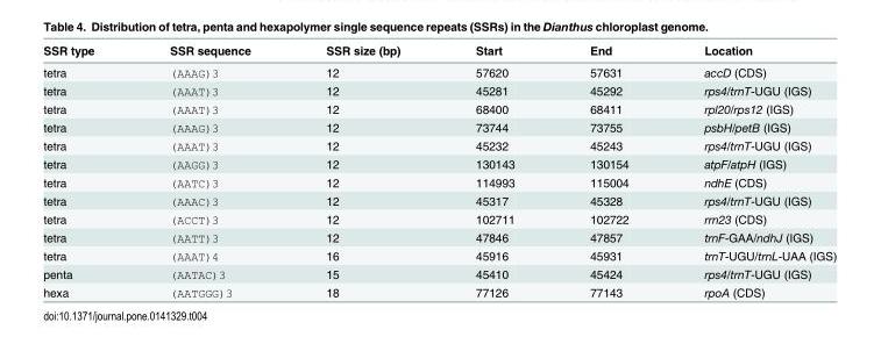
<table><thead><tr><td>SSR type</td><td>SSR sequence</td><td>SSR size (bp)</td><td>Start</td><td>End</td><td>Location</td></tr></thead><tbody><tr><td>tetra</td><td>(AAAG)3</td><td>12</td><td>57620</td><td>57631</td><td>accD (CDS)</td></tr><tr><td>tetra</td><td>(AAAT)3</td><td>12</td><td>45281</td><td>45292</td><td>rps4/trnT-UGU (IGS)</td></tr><tr><td>tetra</td><td>(AAAT)3</td><td>12</td><td>68400</td><td>68411</td><td>rpl20/rps12 (IGS)</td></tr><tr><td>tetra</td><td>(AAAG)3</td><td>12</td><td>73744</td><td>73755</td><td>psbH/petB (IGS)</td></tr><tr><td>tetra</td><td>(AAAT)3</td><td>12</td><td>45232</td><td>45243</td><td>rps4/trnT-UGU (IGS)</td></tr><tr><td>tetra</td><td>(AAGG)3</td><td>12</td><td>130143</td><td>130154</td><td>atpF/atpH (IGS)</td></tr><tr><td>tetra</td><td>(AATC)3</td><td>12</td><td>114993</td><td>115004</td><td>ndhE (CDS)</td></tr><tr><td>tetra</td><td>(AAAC)3</td><td>12</td><td>45317</td><td>45328</td><td>rps4/trnT-UGU (IGS)</td></tr><tr><td>tetra</td><td>(ACCT)3</td><td>12</td><td>102711</td><td>102722</td><td>rrn23 (CDS)</td></tr><tr><td>tetra</td><td>(AATT)3</td><td>12</td><td>47846</td><td>47857</td><td>trnF-GAA/ndhJ (IGS)</td></tr><tr><td>tetra</td><td>(AAAT)4</td><td>16</td><td>45916</td><td>45931</td><td>trnT-UGU/trnL-UAA (IGS)</td></tr><tr><td>penta</td><td>(AATAC)3</td><td>15</td><td>45410</td><td>45424</td><td>rps4/trnT-UGU (IGS)</td></tr><tr><td>hexa</td><td>(AATGGG)3</td><td>18</td><td>77126</td><td>77143</td><td>rpoA (CDS)</td></tr></tbody></table>